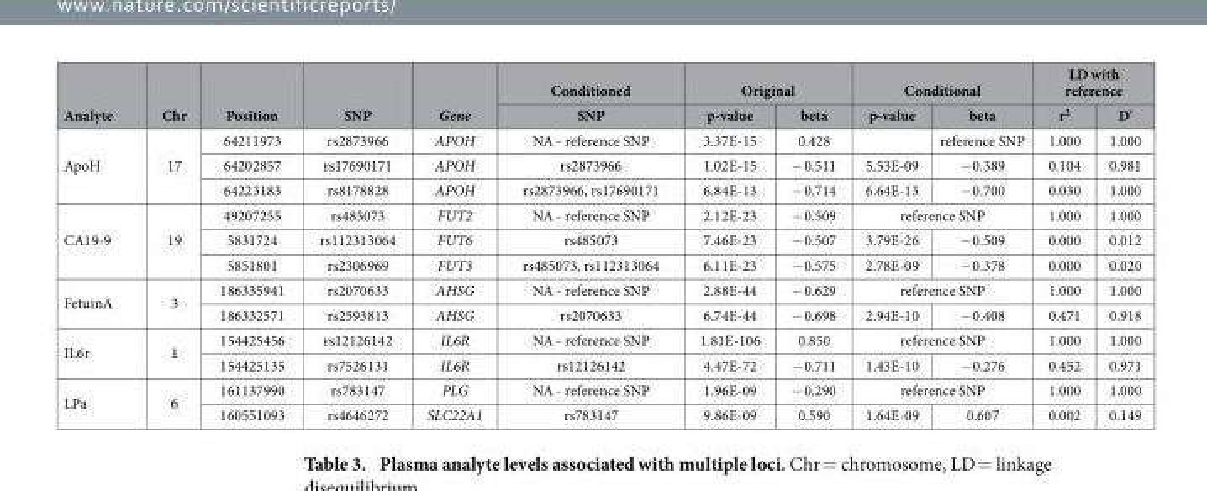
<table><thead><tr><td rowspan="2">Analyte</td><td rowspan="2">Chr</td><td rowspan="2">Position</td><td rowspan="2">SNP</td><td rowspan="2">Gene</td><td rowspan="2">Conditioned SNP</td><td colspan="2">Original</td><td colspan="2">Conditional</td><td colspan="2">LD with reference</td></tr><tr><td>p-value</td><td>beta</td><td>p-value</td><td>beta</td><td>r<sup>2</sup></td><td>D&#x27;</td></tr></thead><tbody><tr><td rowspan="3">ApoH</td><td rowspan="3">17</td><td>64211973</td><td>rs2873966</td><td>APOH</td><td>NA - reference SNP</td><td>3.37E-15</td><td>0.428</td><td></td><td>reference SNP</td><td>1.000</td><td>1.000</td></tr><tr><td>64202857</td><td>rs17690171</td><td>APOH</td><td>rs2873966</td><td>1.02E-15</td><td>− 0.511</td><td>5.53E-09</td><td>− 0.389</td><td>0.104</td><td>0.981</td></tr><tr><td>64223183</td><td>rs8178828</td><td>APOH</td><td>rs2873966, rs17690171</td><td>6.84E-13</td><td>− 0.714</td><td>6.64E-13</td><td>− 0.700</td><td>0.030</td><td>1.000</td></tr><tr><td rowspan="3">CA19-9</td><td rowspan="3">19</td><td>49207255</td><td>rs485073</td><td>FUT2</td><td>NA - reference SNP</td><td>2.12E-23</td><td>− 0.509</td><td colspan="2">reference SNP</td><td>1.000</td><td>1.000</td></tr><tr><td>5831724</td><td>rs112313064</td><td>FUT6</td><td>rs485073</td><td>7.46E-23</td><td>− 0.507</td><td>3.79E-26</td><td>− 0.509</td><td>0.000</td><td>0.012</td></tr><tr><td>5851801</td><td>rs2306969</td><td>FUT3</td><td>rs485073, rs112313064</td><td>6.11E-23</td><td>− 0.575</td><td>2.78E-09</td><td>− 0.378</td><td>0.000</td><td>0.020</td></tr><tr><td rowspan="2">FetuinA</td><td rowspan="2">3</td><td>186335941</td><td>rs2070633</td><td>AHSG</td><td>NA - reference SNP</td><td>2.88E-44</td><td>− 0.629</td><td colspan="2">reference SNP</td><td>1.000</td><td>1.000</td></tr><tr><td>186332571</td><td>rs2593813</td><td>AHSG</td><td>rs2070633</td><td>6.74E-44</td><td>− 0.698</td><td>2.94E-10</td><td>− 0.408</td><td>0.471</td><td>0.918</td></tr><tr><td rowspan="2">IL6r</td><td rowspan="2">1</td><td>154425456</td><td>rs12126142</td><td>IL6R</td><td>NA - reference SNP</td><td>1.81E-106</td><td>0.850</td><td colspan="2">reference SNP</td><td>1.000</td><td>1.000</td></tr><tr><td>154425135</td><td>rs7526131</td><td>IL6R</td><td>rs12126142</td><td>4.47E-72</td><td>− 0.711</td><td>1.43E-10</td><td>− 0.276</td><td>0.452</td><td>0.971</td></tr><tr><td rowspan="2">LPa</td><td rowspan="2">6</td><td>161137990</td><td>rs783147</td><td>PLG</td><td>NA - reference SNP</td><td>1.96E-09</td><td>− 0.290</td><td colspan="2">reference SNP</td><td>1.000</td><td>1.000</td></tr><tr><td>160551093</td><td>rs4646272</td><td>SLC22A1</td><td>rs783147</td><td>9.86E-09</td><td>0.590</td><td>1.64E-09</td><td>0.607</td><td>0.002</td><td>0.149</td></tr></tbody></table>